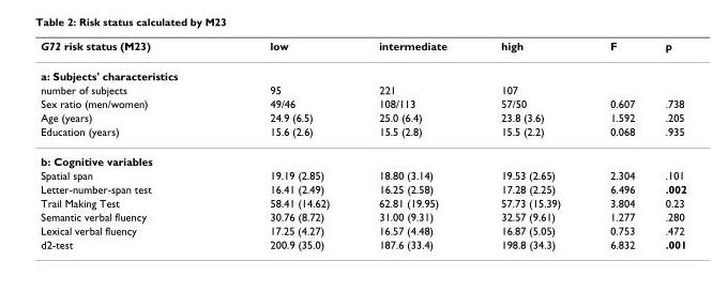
<table><thead><tr><td>G72 risk status (M23)</td><td>low</td><td>intermediate</td><td>high</td><td>F</td><td>p</td></tr></thead><tbody><tr><td colspan="6">a: Subjects&#x27; characteristics</td></tr><tr><td>number of subjects</td><td>95</td><td>221</td><td>107</td><td></td><td></td></tr><tr><td>Sex ratio (men/women)</td><td>49/46</td><td>108/113</td><td>57/50</td><td>0.607</td><td>.738</td></tr><tr><td>Age (years)</td><td>24.9 (6.5)</td><td>25.0 (6.4)</td><td>23.8 (3.6)</td><td>1.592</td><td>.205</td></tr><tr><td>Education (years)</td><td>15.6 (2.6)</td><td>15.5 (2.8)</td><td>15.5 (2.2)</td><td>0.068</td><td>.935</td></tr><tr><td colspan="6">b: Cognitive variables</td></tr><tr><td>Spatial span</td><td>19.19 (2.85)</td><td>18.80 (3.14)</td><td>19.53 (2.65)</td><td>2.304</td><td>.101</td></tr><tr><td>Letter-number-span test</td><td>16.41 (2.49)</td><td>16.25 (2.58)</td><td>17.28 (2.25)</td><td>6.496</td><td>.002</td></tr><tr><td>Trail Making Test</td><td>58.41 (14.62)</td><td>62.81 (19.95)</td><td>57.73 (15.39)</td><td>3.804</td><td>0.23</td></tr><tr><td>Semantic verbal fluency</td><td>30.76 (8.72)</td><td>31.00 (9.31)</td><td>32.57 (9.61)</td><td>1.277</td><td>.280</td></tr><tr><td>Lexical verbal fluency</td><td>17.25 (4.27)</td><td>16.57 (4.48)</td><td>16.87 (5.05)</td><td>0.753</td><td>.472</td></tr><tr><td>d2-test</td><td>200.9 (35.0)</td><td>187.6 (33.4)</td><td>198.8 (34.3)</td><td>6.832</td><td>.001</td></tr></tbody></table>